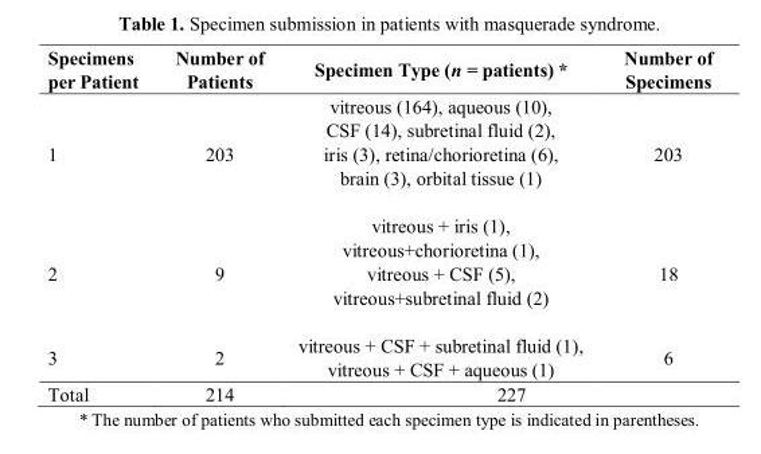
<table><thead><tr><td>Specimens per Patient</td><td>Number of Patients</td><td>Specimen Type (n = patients) *</td><td>Number of Specimens</td></tr></thead><tbody><tr><td>1</td><td>203</td><td>vitreous (164), aqueous (10), CSF (14), subretinal fluid (2), iris (3), retina/chorioretina (6), brain (3), orbital tissue (1)</td><td>203</td></tr><tr><td>2</td><td>9</td><td>vitreous + iris (1), vitreous+chorioretina (1), vitreous + CSF (5), vitreous+subretinal fluid (2)</td><td>18</td></tr><tr><td>3</td><td>2</td><td>vitreous + CSF + subretinal fluid (1), vitreous + CSF + aqueous (1)</td><td>6</td></tr><tr><td>Total</td><td>214</td><td>227</td><td></td></tr></tbody></table>